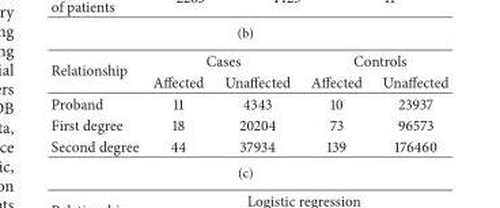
<table><thead><tr><td rowspan="2">Relationship</td><td colspan="2">Cases</td><td colspan="2">Controls</td></tr><tr><td>Affected</td><td>Unaffected</td><td>Affected</td><td>Unaffected</td></tr></thead><tbody><tr><td>Proband</td><td>11</td><td>4343</td><td>10</td><td>23937</td></tr><tr><td>First degree</td><td>18</td><td>20204</td><td>73</td><td>96573</td></tr><tr><td>Second degree</td><td>44</td><td>37934</td><td>139</td><td>176460</td></tr></tbody></table>